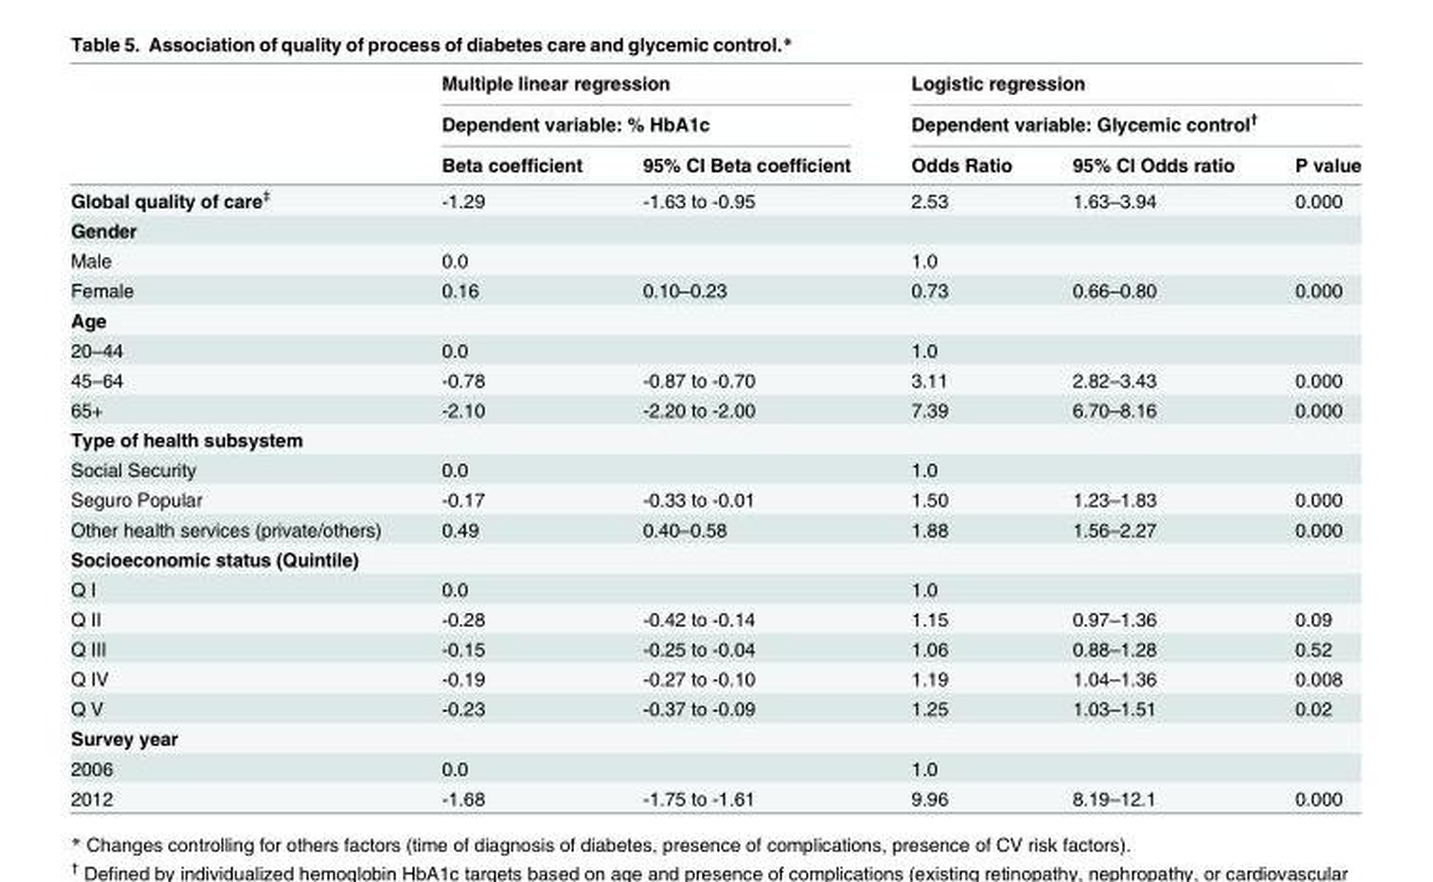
<table><thead><tr><td rowspan="3"></td><td rowspan="2" colspan="2">Multiple linear regression Dependent variable: % HbA1c</td><td rowspan="2" colspan="3">Logistic regression Dependent variable: Glycemic control<sup>†</sup></td></tr><tr></tr><tr><td>Beta coefficient</td><td>95% CI Beta coefficient</td><td>Odds Ratio</td><td>95% CI Odds ratio</td><td>P value</td></tr></thead><tbody><tr><td>Global quality of care<sup>‡</sup></td><td>-1.29</td><td>-1.63 to -0.95</td><td>2.53</td><td>1.63–3.94</td><td>0.000</td></tr><tr><td colspan="6">Gender</td></tr><tr><td>Male</td><td>0.0</td><td></td><td>1.0</td><td></td><td></td></tr><tr><td>Female</td><td>0.16</td><td>0.10–0.23</td><td>0.73</td><td>0.66–0.80</td><td>0.000</td></tr><tr><td colspan="6">Age</td></tr><tr><td>20–44</td><td>0.0</td><td></td><td>1.0</td><td></td><td></td></tr><tr><td>45–64</td><td>-0.78</td><td>-0.87 to -0.70</td><td>3.11</td><td>2.82–3.43</td><td>0.000</td></tr><tr><td>65+</td><td>-2.10</td><td>-2.20 to -2.00</td><td>7.39</td><td>6.70–8.16</td><td>0.000</td></tr><tr><td colspan="6">Type of health subsystem</td></tr><tr><td>Social Security</td><td>0.0</td><td></td><td>1.0</td><td></td><td></td></tr><tr><td>Seguro Popular</td><td>-0.17</td><td>-0.33 to -0.01</td><td>1.50</td><td>1.23–1.83</td><td>0.000</td></tr><tr><td>Other health services (private/others)</td><td>0.49</td><td>0.40–0.58</td><td>1.88</td><td>1.56–2.27</td><td>0.000</td></tr><tr><td colspan="6">Socioeconomic status (Quintile)</td></tr><tr><td>Q I</td><td>0.0</td><td></td><td>1.0</td><td></td><td></td></tr><tr><td>Q II</td><td>-0.28</td><td>-0.42 to -0.14</td><td>1.15</td><td>0.97–1.36</td><td>0.09</td></tr><tr><td>Q III</td><td>-0.15</td><td>-0.25 to -0.04</td><td>1.06</td><td>0.88–1.28</td><td>0.52</td></tr><tr><td>Q IV</td><td>-0.19</td><td>-0.27 to -0.10</td><td>1.19</td><td>1.04–1.36</td><td>0.008</td></tr><tr><td>Q V</td><td>-0.23</td><td>-0.37 to -0.09</td><td>1.25</td><td>1.03–1.51</td><td>0.02</td></tr><tr><td colspan="6">Survey year</td></tr><tr><td>2006</td><td>0.0</td><td></td><td>1.0</td><td></td><td></td></tr><tr><td>2012</td><td>-1.68</td><td>-1.75 to -1.61</td><td>9.96</td><td>8.19–12.1</td><td>0.000</td></tr></tbody></table>